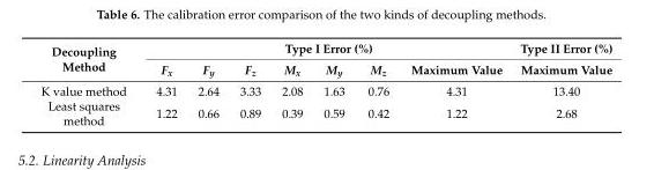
<table><thead><tr><td rowspan="2">Decoupling Method</td><td colspan="7">Type I Error (%)</td><td rowspan="2">Type II Error (%) Maximum Value</td></tr><tr><td>F<sub>x</sub></td><td>F<sub>y</sub></td><td>F<sub>z</sub></td><td>M<sub>x</sub></td><td>M<sub>y</sub></td><td>M<sub>z</sub></td><td>Maximum Value</td></tr></thead><tbody><tr><td>K value method</td><td>4.31</td><td>2.64</td><td>3.33</td><td>2.08</td><td>1.63</td><td>0.76</td><td>4.31</td><td>13.40</td></tr><tr><td>Least squares method</td><td>1.22</td><td>0.66</td><td>0.89</td><td>0.39</td><td>0.59</td><td>0.42</td><td>1.22</td><td>2.68</td></tr></tbody></table>